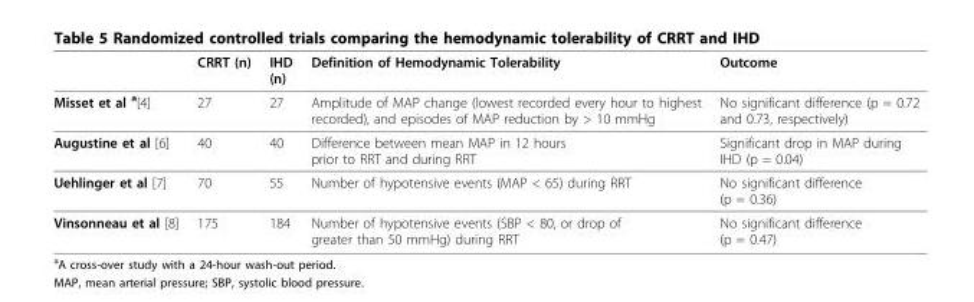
<table><thead><tr><td></td><td>CRRT (n)</td><td>IHD (n)</td><td>Definition of Hemodynamic Tolerability</td><td>Outcome</td></tr></thead><tbody><tr><td>Misset et al <sup>a</sup>[4]</td><td>27</td><td>27</td><td>Amplitude of MAP change (lowest recorded every hour to highest recorded), and episodes of MAP reduction by &gt; 10 mmHg</td><td>No significant difference (p = 0.72 and 0.73, respectively)</td></tr><tr><td>Augustine et al [6]</td><td>40</td><td>40</td><td>Difference between mean MAP in 12 hours prior to RRT and during RRT</td><td>Significant drop in MAP during IHD (p = 0.04)</td></tr><tr><td>Uehlinger et al [7]</td><td>70</td><td>55</td><td>Number of hypotensive events (MAP &lt; 65) during RRT</td><td>No significant difference (p = 0.36)</td></tr><tr><td>Vinsonneau et al [8]</td><td>175</td><td>184</td><td>Number of hypotensive events (SBP &lt; 80, or drop of greater than 50 mmHg) during RRT</td><td>No significant difference (p = 0.47)</td></tr></tbody></table>